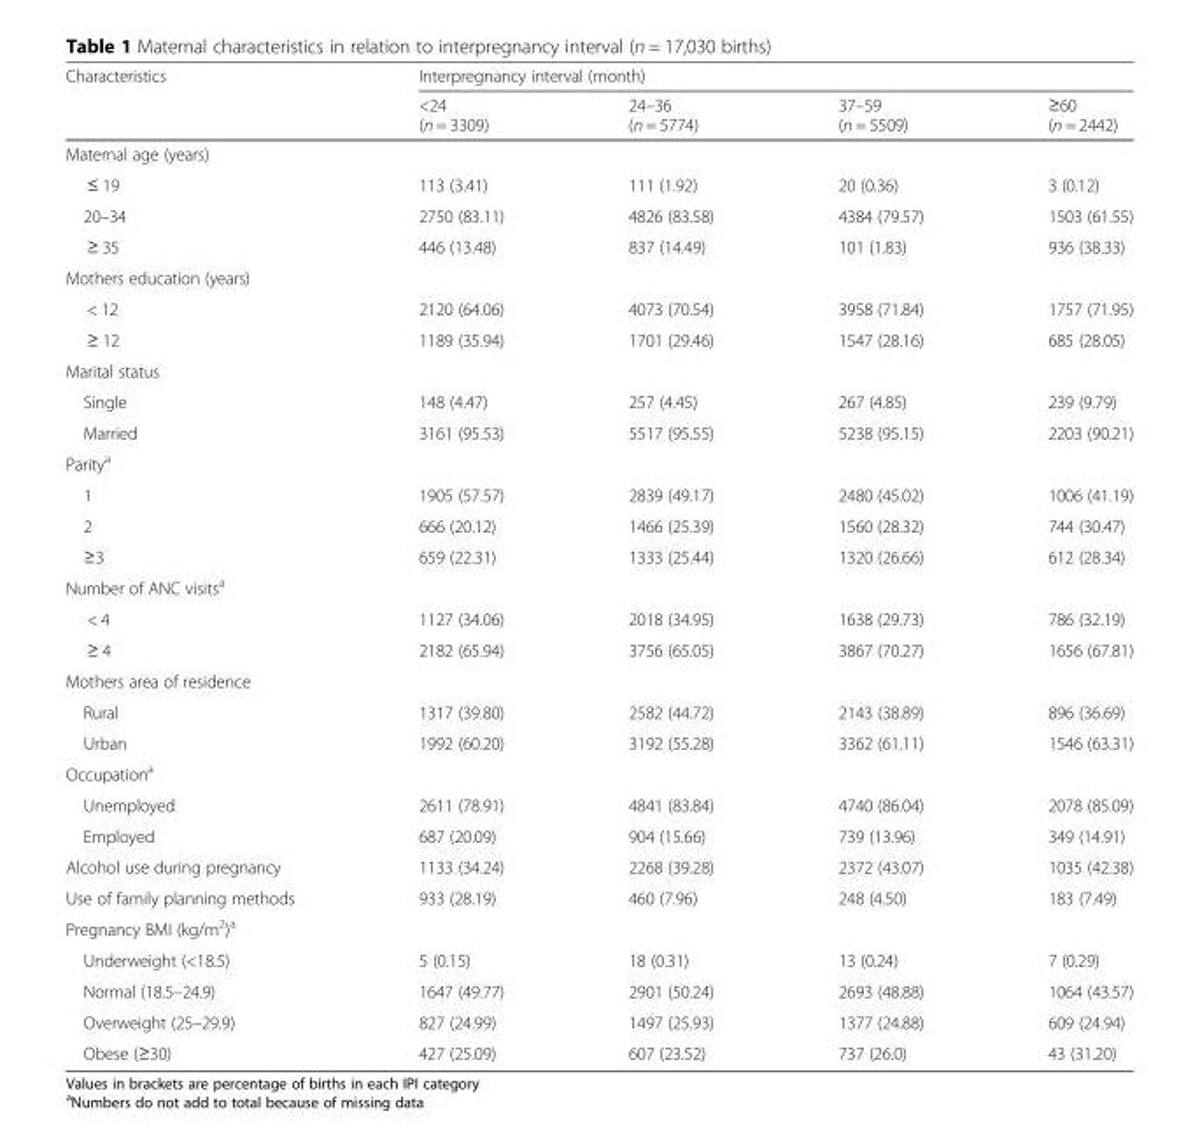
<table><thead><tr><td rowspan="2">Characteristics</td><td colspan="4">Interpregnancy interval (month)</td></tr><tr><td>&lt;24 (n = 3309)</td><td>24–36 (n = 5774)</td><td>37–59 (n = 5509)</td><td>≥60 (n = 2442)</td></tr></thead><tbody><tr><td colspan="5">Maternal age (years)</td></tr><tr><td>≤ 19</td><td>113 (3.41)</td><td>111 (1.92)</td><td>20 (0.36)</td><td>3 (0.12)</td></tr><tr><td>20–34</td><td>2750 (83.11)</td><td>4826 (83.58)</td><td>4384 (79.57)</td><td>1503 (61.55)</td></tr><tr><td>≥ 35</td><td>446 (13.48)</td><td>837 (14.49)</td><td>101 (1.83)</td><td>936 (38.33)</td></tr><tr><td colspan="5">Mothers education (years)</td></tr><tr><td>&lt; 12</td><td>2120 (64.06)</td><td>4073 (70.54)</td><td>3958 (71.84)</td><td>1757 (71.95)</td></tr><tr><td>≥ 12</td><td>1189 (35.94)</td><td>1701 (29.46)</td><td>1547 (28.16)</td><td>685 (28.05)</td></tr><tr><td colspan="5">Marital status</td></tr><tr><td>Single</td><td>148 (4.47)</td><td>257 (4.45)</td><td>267 (4.85)</td><td>239 (9.79)</td></tr><tr><td>Married</td><td>3161 (95.53)</td><td>5517 (95.55)</td><td>5238 (95.15)</td><td>2203 (90.21)</td></tr><tr><td colspan="5">Parity<sup>a</sup></td></tr><tr><td>1</td><td>1905 (57.57)</td><td>2839 (49.17)</td><td>2480 (45.02)</td><td>1006 (41.19)</td></tr><tr><td>2</td><td>666 (20.12)</td><td>1466 (25.39)</td><td>1560 (28.32)</td><td>744 (30.47)</td></tr><tr><td>≥3</td><td>659 (22.31)</td><td>1333 (25.44)</td><td>1320 (26.66)</td><td>612 (28.34)</td></tr><tr><td colspan="5">Number of ANC visits<sup>a</sup></td></tr><tr><td>&lt; 4</td><td>1127 (34.06)</td><td>2018 (34.95)</td><td>1638 (29.73)</td><td>786 (32.19)</td></tr><tr><td>≥ 4</td><td>2182 (65.94)</td><td>3756 (65.05)</td><td>3867 (70.27)</td><td>1656 (67.81)</td></tr><tr><td colspan="5">Mothers area of residence</td></tr><tr><td>Rural</td><td>1317 (39.80)</td><td>2582 (44.72)</td><td>2143 (38.89)</td><td>896 (36.69)</td></tr><tr><td>Urban</td><td>1992 (60.20)</td><td>3192 (55.28)</td><td>3362 (61.11)</td><td>1546 (63.31)</td></tr><tr><td colspan="5">Occupation<sup>a</sup></td></tr><tr><td>Unemployed</td><td>2611 (78.91)</td><td>4841 (83.84)</td><td>4740 (86.04)</td><td>2078 (85.09)</td></tr><tr><td>Employed</td><td>687 (20.09)</td><td>904 (15.66)</td><td>739 (13.96)</td><td>349 (14.91)</td></tr><tr><td>Alcohol use during pregnancy</td><td>1133 (34.24)</td><td>2268 (39.28)</td><td>2372 (43.07)</td><td>1035 (42.38)</td></tr><tr><td>Use of family planning methods</td><td>933 (28.19)</td><td>460 (7.96)</td><td>248 (4.50)</td><td>183 (7.49)</td></tr><tr><td colspan="5">Pregnancy BMI (kg/m<sup>2</sup>)<sup>a</sup></td></tr><tr><td>Underweight (&lt;18.5)</td><td>5 (0.15)</td><td>18 (0.31)</td><td>13 (0.24)</td><td>7 (0.29)</td></tr><tr><td>Normal (18.5–24.9)</td><td>1647 (49.77)</td><td>2901 (50.24)</td><td>2693 (48.88)</td><td>1064 (43.57)</td></tr><tr><td>Overweight (25–29.9)</td><td>827 (24.99)</td><td>1497 (25.93)</td><td>1377 (24.88)</td><td>609 (24.94)</td></tr><tr><td>Obese (≥30)</td><td>427 (25.09)</td><td>607 (23.52)</td><td>737 (26.0)</td><td>43 (31.20)</td></tr></tbody></table>